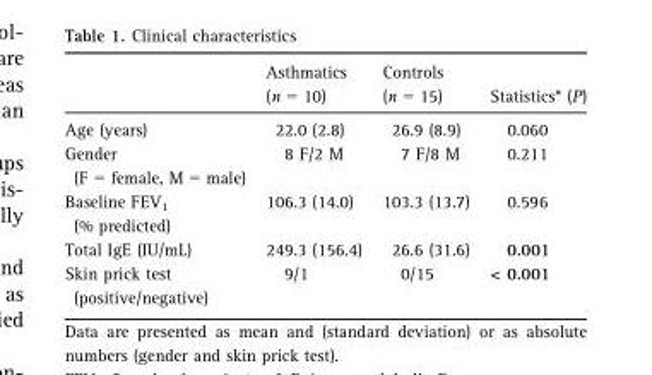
<table><thead><tr><td></td><td>Asthmatics (n = 10)</td><td>Controls (n = 15)</td><td>Statistics* (P)</td></tr></thead><tbody><tr><td>Age (years)</td><td>22.0 (2.8)</td><td>26.9 (8.9)</td><td>0.060</td></tr><tr><td>Gender (F = female, M = male)</td><td>8 F/2 M</td><td>7 F/8 M</td><td>0.211</td></tr><tr><td>Baseline FEV<sub>1</sub> (% predicted)</td><td>106.3 (14.0)</td><td>103.3 (13.7)</td><td>0.596</td></tr><tr><td>Total IgE (IU/mL)</td><td>249.3 (156.4)</td><td>26.6 (31.6)</td><td>0.001</td></tr><tr><td>Skin prick test (positive/negative)</td><td>9/1</td><td>0/15</td><td>&lt; 0.001</td></tr></tbody></table>